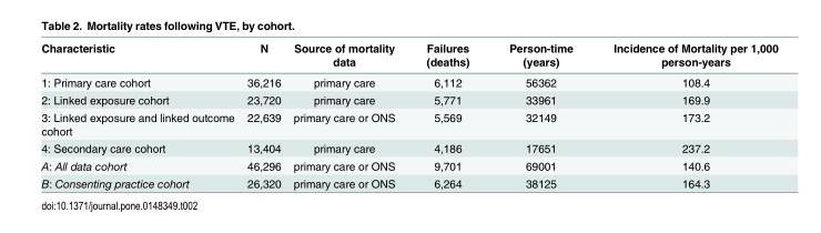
<table><thead><tr><td>Characteristic</td><td>N</td><td>Source of mortality data</td><td>Failures (deaths)</td><td>Person-time (years)</td><td>Incidence of Mortality per 1,000 person-years</td></tr></thead><tbody><tr><td>1: Primary care cohort</td><td>36,216</td><td>primary care</td><td>6,112</td><td>56362</td><td>108.4</td></tr><tr><td>2: Linked exposure cohort</td><td>23,720</td><td>primary care</td><td>5,771</td><td>33961</td><td>169.9</td></tr><tr><td>3: Linked exposure and linked outcome cohort</td><td>22,639</td><td>primary care or ONS</td><td>5,569</td><td>32149</td><td>173.2</td></tr><tr><td>4: Secondary care cohort</td><td>13,404</td><td>primary care</td><td>4,186</td><td>17651</td><td>237.2</td></tr><tr><td>A: All data cohort</td><td>46,296</td><td>primary care or ONS</td><td>9,701</td><td>69001</td><td>140.6</td></tr><tr><td>B: Consenting practice cohort</td><td>26,320</td><td>primary care or ONS</td><td>6,264</td><td>38125</td><td>164.3</td></tr></tbody></table>